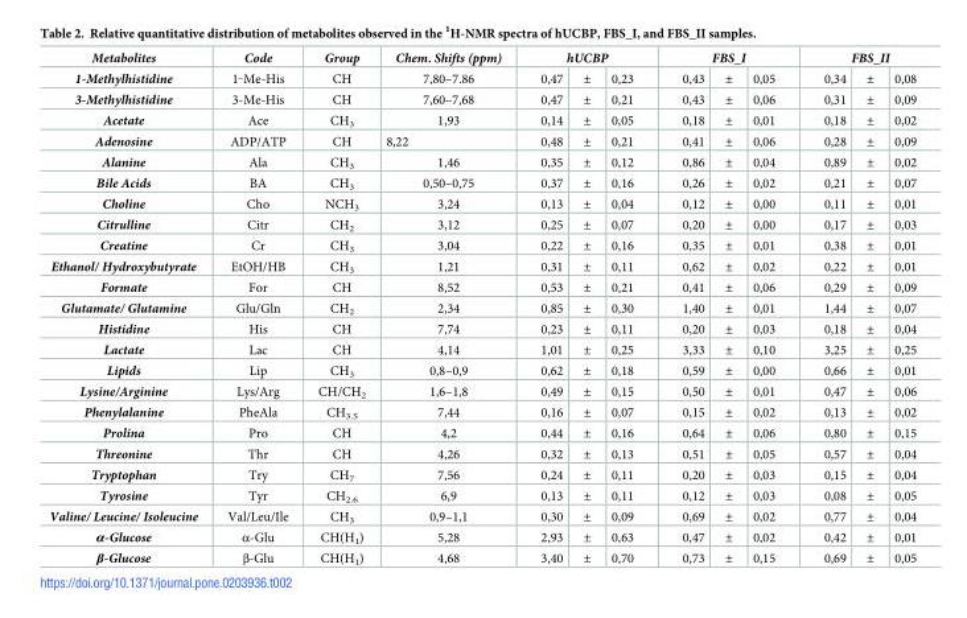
<table><thead><tr><td rowspan="2">Metabolites 1-Methylhistidine</td><td rowspan="2">Code 1<sup>_</sup>Me-His</td><td rowspan="2">Group CH</td><td rowspan="2">Chem. Shifts (ppm) 7,80–7.86</td><td colspan="3">hUCBP</td><td colspan="3">FBS_I</td><td colspan="3">FBS_II</td></tr><tr><td>0,47</td><td>±</td><td>0,23</td><td>0,43</td><td>±</td><td>0,05</td><td>0,34</td><td>±</td><td>0,08</td></tr></thead><tbody><tr><td>3-Methylhistidine</td><td>3-Me-His</td><td>CH</td><td>7,60–7,68</td><td>0,47</td><td>±</td><td>0,21</td><td>0,43</td><td>±</td><td>0,06</td><td>0,31</td><td>±</td><td>0,09</td></tr><tr><td>Acetate</td><td>Ace</td><td>CH<sub>3</sub></td><td>1,93</td><td>0,14</td><td>±</td><td>0,05</td><td>0,18</td><td>±</td><td>0,01</td><td>0,18</td><td>±</td><td>0,02</td></tr><tr><td>Adenosine</td><td>ADP/ATP</td><td>CH</td><td>8,22</td><td>0,48</td><td>±</td><td>0,21</td><td>0,41</td><td>±</td><td>0,06</td><td>0,28</td><td>±</td><td>0,09</td></tr><tr><td>Alanine</td><td>Ala</td><td>CH<sub>3</sub></td><td>1,46</td><td>0,35</td><td>±</td><td>0,12</td><td>0,86</td><td>±</td><td>0,04</td><td>0,89</td><td>±</td><td>0,02</td></tr><tr><td>Bile Acids</td><td>BA</td><td>CH<sub>3</sub></td><td>0,50–0,75</td><td>0,37</td><td>±</td><td>0,16</td><td>0,26</td><td>±</td><td>0,02</td><td>0,21</td><td>±</td><td>0,07</td></tr><tr><td>Choline</td><td>Cho</td><td>NCH<sub>3</sub></td><td>3,24</td><td>0,13</td><td>±</td><td>0,04</td><td>0,12</td><td>±</td><td>0,00</td><td>0,11</td><td>±</td><td>0,01</td></tr><tr><td>Citrulline</td><td>Citr</td><td>CH<sub>2</sub></td><td>3,12</td><td>0,25</td><td>±</td><td>0,07</td><td>0,20</td><td>±</td><td>0,00</td><td>0,17</td><td>±</td><td>0,03</td></tr><tr><td>Creatine</td><td>Cr</td><td>CH<sub>3</sub></td><td>3,04</td><td>0,22</td><td>±</td><td>0,16</td><td>0,35</td><td>±</td><td>0,01</td><td>0,38</td><td>±</td><td>0,01</td></tr><tr><td>Ethanol/ Hydroxybutyrate</td><td>EtOH/HB</td><td>CH<sub>3</sub></td><td>1,21</td><td>0,31</td><td>±</td><td>0,11</td><td>0,62</td><td>±</td><td>0,02</td><td>0,22</td><td>±</td><td>0,01</td></tr><tr><td>Formate</td><td>For</td><td>CH</td><td>8,52</td><td>0,53</td><td>±</td><td>0,21</td><td>0,41</td><td>±</td><td>0,06</td><td>0,29</td><td>±</td><td>0,09</td></tr><tr><td>Glutamate/ Glutamine</td><td>Glu/Gln</td><td>CH<sub>2</sub></td><td>2,34</td><td>0,85</td><td>±</td><td>0,30</td><td>1,40</td><td>±</td><td>0,01</td><td>1,44</td><td>±</td><td>0,07</td></tr><tr><td>Histidine</td><td>His</td><td>CH</td><td>7,74</td><td>0,23</td><td>±</td><td>0,11</td><td>0,20</td><td>±</td><td>0,03</td><td>0,18</td><td>±</td><td>0,04</td></tr><tr><td>Lactate</td><td>Lac</td><td>CH</td><td>4,14</td><td>1,01</td><td>±</td><td>0,25</td><td>3,33</td><td>±</td><td>0,10</td><td>3,25</td><td>±</td><td>0,25</td></tr><tr><td>Lipids</td><td>Lip</td><td>CH<sub>3</sub></td><td>0,8–0,9</td><td>0,62</td><td>±</td><td>0,18</td><td>0,59</td><td>±</td><td>0,00</td><td>0,66</td><td>±</td><td>0,01</td></tr><tr><td>Lysine/Arginine</td><td>Lys/Arg</td><td>CH/CH<sub>2</sub></td><td>1,6–1,8</td><td>0,49</td><td>±</td><td>0,15</td><td>0,50</td><td>±</td><td>0,01</td><td>0,47</td><td>±</td><td>0,06</td></tr><tr><td>Phenylalanine</td><td>PheAla</td><td>CH<sub>3.5</sub></td><td>7,44</td><td>0,16</td><td>±</td><td>0,07</td><td>0,15</td><td>±</td><td>0,02</td><td>0,13</td><td>±</td><td>0,02</td></tr><tr><td>Prolina</td><td>Pro</td><td>CH</td><td>4,2</td><td>0,44</td><td>±</td><td>0,16</td><td>0,64</td><td>±</td><td>0,06</td><td>0,80</td><td>±</td><td>0,15</td></tr><tr><td>Threonine</td><td>Thr</td><td>CH</td><td>4,26</td><td>0,32</td><td>±</td><td>0,13</td><td>0,51</td><td>±</td><td>0,05</td><td>0,57</td><td>±</td><td>0,04</td></tr><tr><td>Tryptophan</td><td>Try</td><td>CH<sub>7</sub></td><td>7,56</td><td>0,24</td><td>±</td><td>0,11</td><td>0,20</td><td>±</td><td>0,03</td><td>0,15</td><td>±</td><td>0,04</td></tr><tr><td>Tyrosine</td><td>Tyr</td><td>CH<sub>2.6</sub></td><td>6,9</td><td>0,13</td><td>±</td><td>0,11</td><td>0,12</td><td>±</td><td>0,03</td><td>0,08</td><td>±</td><td>0,05</td></tr><tr><td>Valine/ Leucine/ Isoleucine</td><td>Val/Leu/Ile</td><td>CH<sub>3</sub></td><td>0,9–1,1</td><td>0,30</td><td>±</td><td>0,09</td><td>0,69</td><td>±</td><td>0,02</td><td>0,77</td><td>±</td><td>0,04</td></tr><tr><td>α-Glucose</td><td>α-Glu</td><td>CH(H<sub>1</sub>)</td><td>5,28</td><td>2,93</td><td>±</td><td>0,63</td><td>0,47</td><td>±</td><td>0,02</td><td>0,42</td><td>±</td><td>0,01</td></tr><tr><td>β-Glucose</td><td>β-Glu</td><td>CH(H<sub>1</sub>)</td><td>4,68</td><td>3,40</td><td>±</td><td>0,70</td><td>0,73</td><td>±</td><td>0,15</td><td>0,69</td><td>±</td><td>0,05</td></tr></tbody></table>